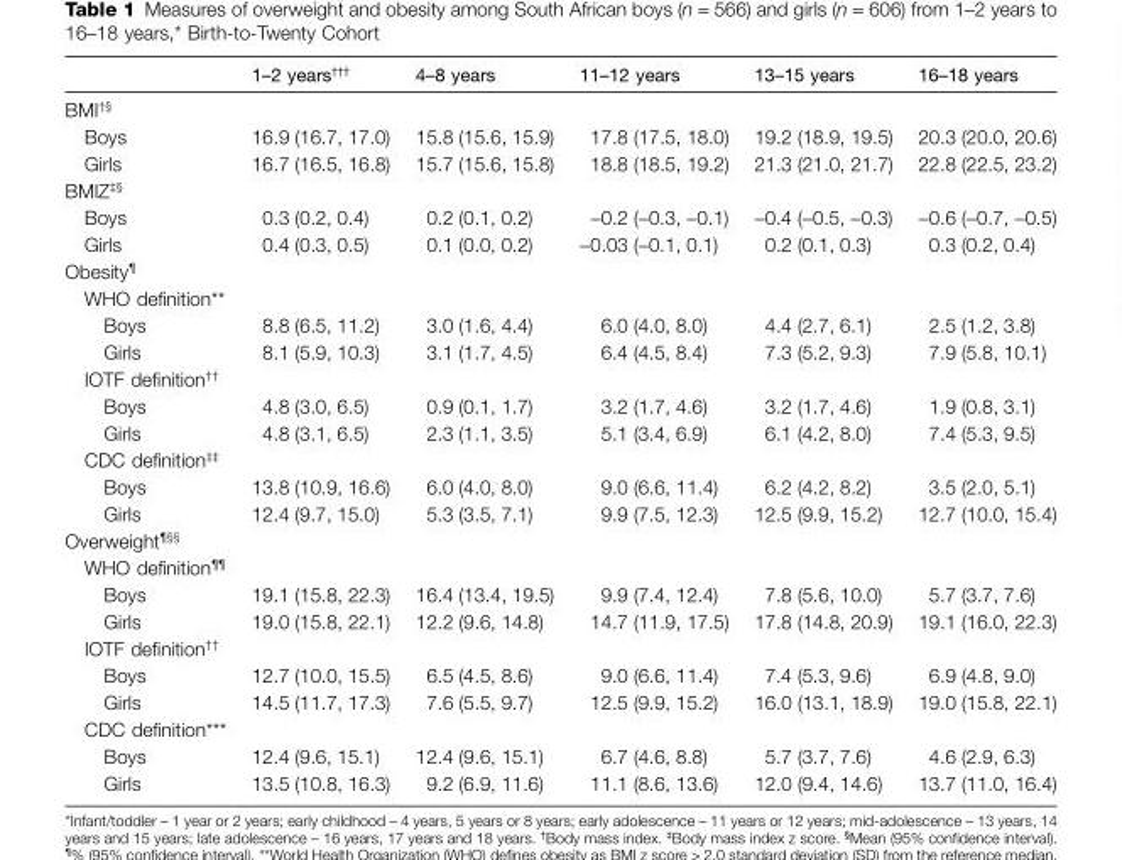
<table><thead><tr><td></td><td>1–2 years<sup>†††</sup></td><td>4–8 years</td><td>11–12 years</td><td>13–15 years</td><td>16–18 years</td></tr></thead><tbody><tr><td colspan="6">BMI<sup>†§</sup></td></tr><tr><td>Boys</td><td>16.9 (16.7, 17.0)</td><td>15.8 (15.6, 15.9)</td><td>17.8 (17.5, 18.0)</td><td>19.2 (18.9, 19.5)</td><td>20.3 (20.0, 20.6)</td></tr><tr><td>Girls</td><td>16.7 (16.5, 16.8)</td><td>15.7 (15.6, 15.8)</td><td>18.8 (18.5, 19.2)</td><td>21.3 (21.0, 21.7)</td><td>22.8 (22.5, 23.2)</td></tr><tr><td colspan="6">BMIZ<sup>‡§</sup></td></tr><tr><td>Boys</td><td>0.3 (0.2, 0.4)</td><td>0.2 (0.1, 0.2)</td><td>−0.2 (−0.3, −0.1)</td><td>−0.4 (−0.5, −0.3)</td><td>−0.6 (−0.7, −0.5)</td></tr><tr><td>Girls</td><td>0.4 (0.3, 0.5)</td><td>0.1 (0.0, 0.2)</td><td>−0.03 (−0.1, 0.1)</td><td>0.2 (0.1, 0.3)</td><td>0.3 (0.2, 0.4)</td></tr><tr><td colspan="6">Obesity<sup>¶</sup></td></tr><tr><td colspan="6">WHO definition**</td></tr><tr><td>Boys</td><td>8.8 (6.5, 11.2)</td><td>3.0 (1.6, 4.4)</td><td>6.0 (4.0, 8.0)</td><td>4.4 (2.7, 6.1)</td><td>2.5 (1.2, 3.8)</td></tr><tr><td>Girls</td><td>8.1 (5.9, 10.3)</td><td>3.1 (1.7, 4.5)</td><td>6.4 (4.5, 8.4)</td><td>7.3 (5.2, 9.3)</td><td>7.9 (5.8, 10.1)</td></tr><tr><td colspan="6">IOTF definition<sup>††</sup></td></tr><tr><td>Boys</td><td>4.8 (3.0, 6.5)</td><td>0.9 (0.1, 1.7)</td><td>3.2 (1.7, 4.6)</td><td>3.2 (1.7, 4.6)</td><td>1.9 (0.8, 3.1)</td></tr><tr><td>Girls</td><td>4.8 (3.1, 6.5)</td><td>2.3 (1.1, 3.5)</td><td>5.1 (3.4, 6.9)</td><td>6.1 (4.2, 8.0)</td><td>7.4 (5.3, 9.5)</td></tr><tr><td colspan="6">CDC definition<sup>‡‡</sup></td></tr><tr><td>Boys</td><td>13.8 (10.9, 16.6)</td><td>6.0 (4.0, 8.0)</td><td>9.0 (6.6, 11.4)</td><td>6.2 (4.2, 8.2)</td><td>3.5 (2.0, 5.1)</td></tr><tr><td>Girls</td><td>12.4 (9.7, 15.0)</td><td>5.3 (3.5, 7.1)</td><td>9.9 (7.5, 12.3)</td><td>12.5 (9.9, 15.2)</td><td>12.7 (10.0, 15.4)</td></tr><tr><td colspan="6">Overweight<sup>¶§§</sup></td></tr><tr><td colspan="6">WHO definition<sup>¶¶</sup></td></tr><tr><td>Boys</td><td>19.1 (15.8, 22.3)</td><td>16.4 (13.4, 19.5)</td><td>9.9 (7.4, 12.4)</td><td>7.8 (5.6, 10.0)</td><td>5.7 (3.7, 7.6)</td></tr><tr><td>Girls</td><td>19.0 (15.8, 22.1)</td><td>12.2 (9.6, 14.8)</td><td>14.7 (11.9, 17.5)</td><td>17.8 (14.8, 20.9)</td><td>19.1 (16.0, 22.3)</td></tr><tr><td colspan="6">IOTF definition<sup>††</sup></td></tr><tr><td>Boys</td><td>12.7 (10.0, 15.5)</td><td>6.5 (4.5, 8.6)</td><td>9.0 (6.6, 11.4)</td><td>7.4 (5.3, 9.6)</td><td>6.9 (4.8, 9.0)</td></tr><tr><td>Girls</td><td>14.5 (11.7, 17.3)</td><td>7.6 (5.5, 9.7)</td><td>12.5 (9.9, 15.2)</td><td>16.0 (13.1, 18.9)</td><td>19.0 (15.8, 22.1)</td></tr><tr><td colspan="6">CDC definition***</td></tr><tr><td>Boys</td><td>12.4 (9.6, 15.1)</td><td>12.4 (9.6, 15.1)</td><td>6.7 (4.6, 8.8)</td><td>5.7 (3.7, 7.6)</td><td>4.6 (2.9, 6.3)</td></tr><tr><td>Girls</td><td>13.5 (10.8, 16.3)</td><td>9.2 (6.9, 11.6)</td><td>11.1 (8.6, 13.6)</td><td>12.0 (9.4, 14.6)</td><td>13.7 (11.0, 16.4)</td></tr></tbody></table>